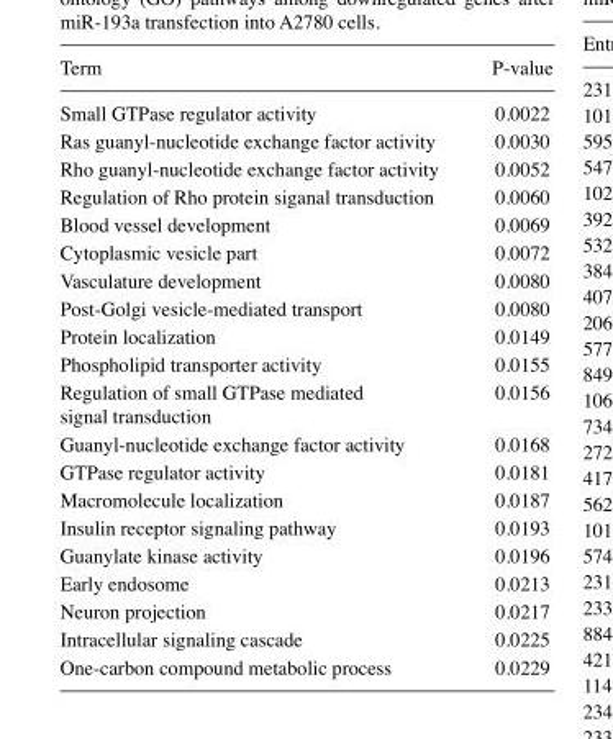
<table><thead><tr><td>Term</td><td>P-value</td></tr></thead><tbody><tr><td>Small GTPase regulator activity</td><td>0.0022</td></tr><tr><td>Ras guanyl-nucleotide exchange factor activity</td><td>0.0030</td></tr><tr><td>Rho guanyl-nucleotide exchange factor activity</td><td>0.0052</td></tr><tr><td>Regulation of Rho protein siganal transduction</td><td>0.0060</td></tr><tr><td>Blood vessel development</td><td>0.0069</td></tr><tr><td>Cytoplasmic vesicle part</td><td>0.0072</td></tr><tr><td>Vasculature development</td><td>0.0080</td></tr><tr><td>Post-Golgi vesicle-mediated transport</td><td>0.0080</td></tr><tr><td>Protein localization</td><td>0.0149</td></tr><tr><td>Phospholipid transporter activity</td><td>0.0155</td></tr><tr><td>Regulation of small GTPase mediated signal transduction</td><td>0.0156</td></tr><tr><td>Guanyl-nucleotide exchange factor activity</td><td>0.0168</td></tr><tr><td>GTPase regulator activity</td><td>0.0181</td></tr><tr><td>Macromolecule localization</td><td>0.0187</td></tr><tr><td>Insulin receptor signaling pathway</td><td>0.0193</td></tr><tr><td>Guanylate kinase activity</td><td>0.0196</td></tr><tr><td>Early endosome</td><td>0.0213</td></tr><tr><td>Neuron projection</td><td>0.0217</td></tr><tr><td>Intracellular signaling cascade</td><td>0.0225</td></tr><tr><td>One-carbon compound metabolic process</td><td>0.0229</td></tr></tbody></table>